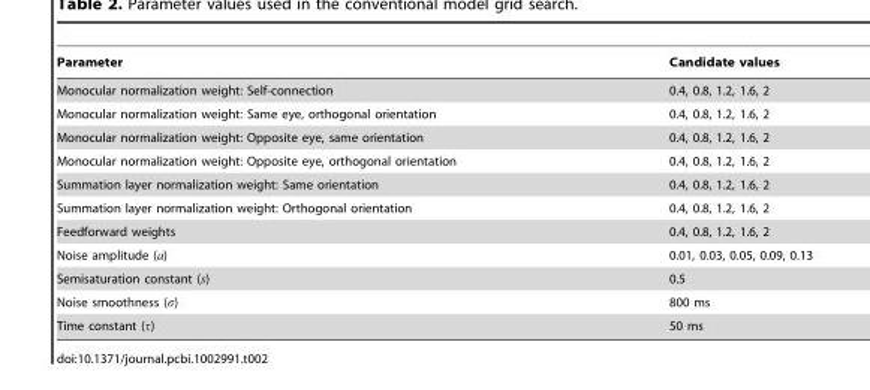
<table><thead><tr><td>Parameter</td><td>Candidate values</td></tr></thead><tbody><tr><td>Monocular normalization weight: Self-connection</td><td>0.4, 0.8, 1.2, 1.6, 2</td></tr><tr><td>Monocular normalization weight: Same eye, orthogonal orientation</td><td>0.4, 0.8, 1.2, 1.6, 2</td></tr><tr><td>Monocular normalization weight: Opposite eye, same orientation</td><td>0.4, 0.8, 1.2, 1.6, 2</td></tr><tr><td>Monocular normalization weight: Opposite eye, orthogonal orientation</td><td>0.4, 0.8, 1.2, 1.6, 2</td></tr><tr><td>Summation layer normalization weight: Same orientation</td><td>0.4, 0.8, 1.2, 1.6, 2</td></tr><tr><td>Summation layer normalization weight: Orthogonal orientation</td><td>0.4, 0.8, 1.2, 1.6, 2</td></tr><tr><td>Feedforward weights</td><td>0.4, 0.8, 1.2, 1.6, 2</td></tr><tr><td>Noise amplitude (a)</td><td>0.01, 0.03, 0.05, 0.09, 0.13</td></tr><tr><td>Semisaturation constant (s)</td><td>0.5</td></tr><tr><td>Noise smoothness (s)</td><td>800 ms</td></tr><tr><td>Time constant (t)</td><td>50 ms</td></tr></tbody></table>